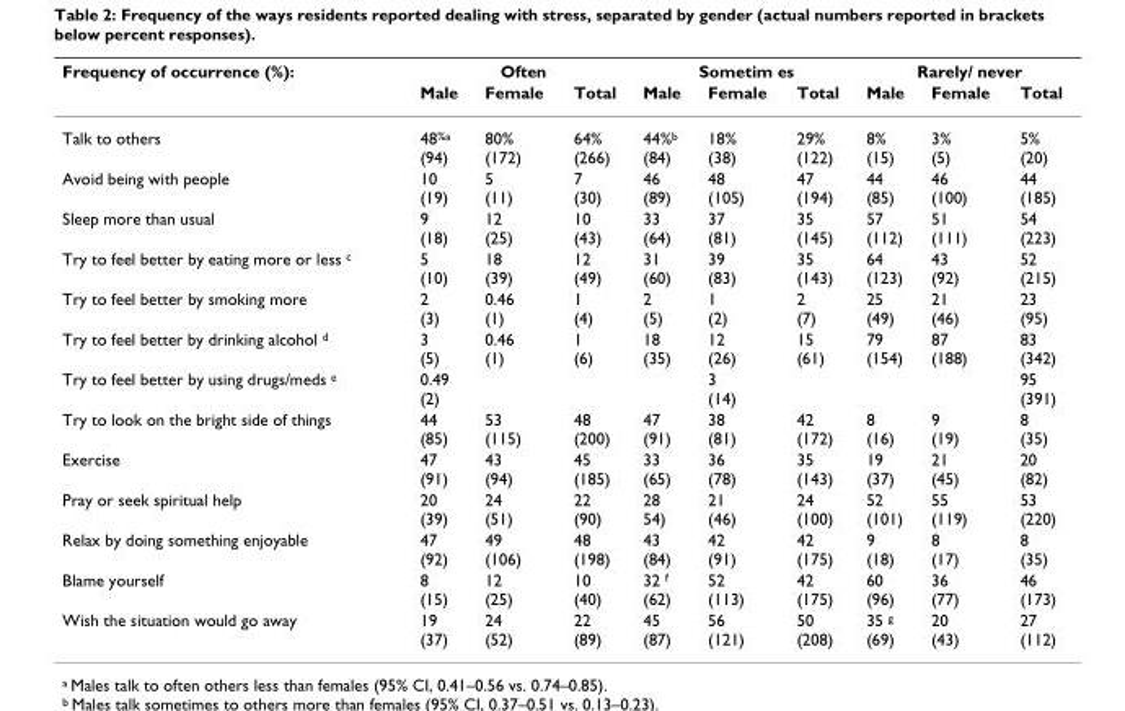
<table><thead><tr><td rowspan="2">Frequency of occurrence (%):</td><td colspan="3">Often</td><td colspan="3">Sometim es</td><td colspan="3">Rarely/ never</td></tr><tr><td>Male</td><td>Female</td><td>Total</td><td>Male</td><td>Female</td><td>Total</td><td>Male</td><td>Female</td><td>Total</td></tr></thead><tbody><tr><td>Talk to others</td><td>48<sup>%a</sup> (94)</td><td>80% (172)</td><td>64% (266)</td><td>44%<sup>b</sup> (84)</td><td>18% (38)</td><td>29% (122)</td><td>8% (15)</td><td>3% (5)</td><td>5% (20)</td></tr><tr><td>Avoid being with people</td><td>10 (19)</td><td>5 (11)</td><td>7 (30)</td><td>46 (89)</td><td>48 (105)</td><td>47 (194)</td><td>44 (85)</td><td>46 (100)</td><td>44 (185)</td></tr><tr><td>Sleep more than usual</td><td>9 (18)</td><td>12 (25)</td><td>10 (43)</td><td>33 (64)</td><td>37 (81)</td><td>35 (145)</td><td>57 (112)</td><td>51 (111)</td><td>54 (223)</td></tr><tr><td>Try to feel better by eating more or less <sup>c</sup></td><td>5 (10)</td><td>18 (39)</td><td>12 (49)</td><td>31 (60)</td><td>39 (83)</td><td>35 (143)</td><td>64 (123)</td><td>43 (92)</td><td>52 (215)</td></tr><tr><td>Try to feel better by smoking more</td><td>2 (3)</td><td>0.46 (1)</td><td>1 (4)</td><td>2 (5)</td><td>1 (2)</td><td>2 (7)</td><td>25 (49)</td><td>21 (46)</td><td>23 (95)</td></tr><tr><td>Try to feel better by drinking alcohol <sup>d</sup></td><td>3 (5)</td><td>0.46 (1)</td><td>1 (6)</td><td>18 (35)</td><td>12 (26)</td><td>15 (61)</td><td>79 (154)</td><td>87 (188)</td><td>83 (342)</td></tr><tr><td>Try to feel better by using drugs/meds <sup>e</sup></td><td>0.49 (2)</td><td></td><td></td><td></td><td>3 (14)</td><td></td><td></td><td></td><td>95 (391)</td></tr><tr><td>Try to look on the bright side of things</td><td>44 (85)</td><td>53 (115)</td><td>48 (200)</td><td>47 (91)</td><td>38 (81)</td><td>42 (172)</td><td>8 (16)</td><td>9 (19)</td><td>8 (35)</td></tr><tr><td>Exercise</td><td>47 (91)</td><td>43 (94)</td><td>45 (185)</td><td>33 (65)</td><td>36 (78)</td><td>35 (143)</td><td>19 (37)</td><td>21 (45)</td><td>20 (82)</td></tr><tr><td>Pray or seek spiritual help</td><td>20 (39)</td><td>24 (51)</td><td>22 (90)</td><td>28 54)</td><td>21 (46)</td><td>24 (100)</td><td>52 (101)</td><td>55 (119)</td><td>53 (220)</td></tr><tr><td>Relax by doing something enjoyable</td><td>47 (92)</td><td>49 (106)</td><td>48 (198)</td><td>43 (84)</td><td>42 (91)</td><td>42 (175)</td><td>9 (18)</td><td>8 (17)</td><td>8 (35)</td></tr><tr><td>Blame yourself</td><td>8 (15)</td><td>12 (25)</td><td>10 (40)</td><td>32 <sup>f</sup> (62)</td><td>52 (113)</td><td>42 (175)</td><td>60 (96)</td><td>36 (77)</td><td>46 (173)</td></tr><tr><td>Wish the situation would go away</td><td>19 (37)</td><td>24 (52)</td><td>22 (89)</td><td>45 (87)</td><td>56 (121)</td><td>50 (208)</td><td>35 <sup>g</sup> (69)</td><td>20 (43)</td><td>27 (112)</td></tr></tbody></table>